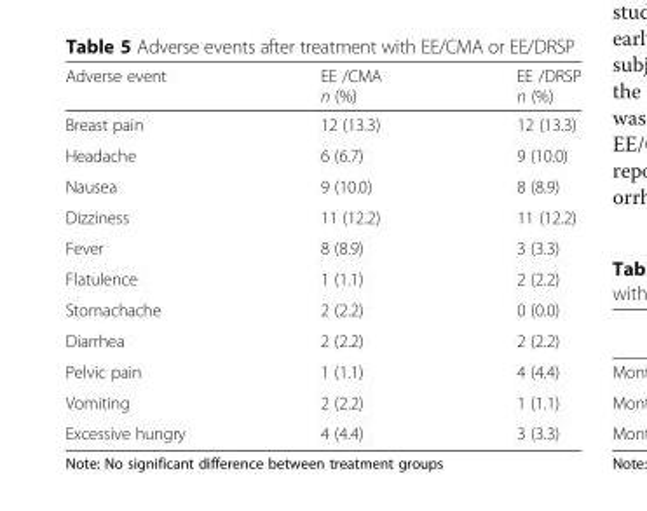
<table><thead><tr><td>Adverse event</td><td>EE /CMA n (%)</td><td>EE /DRSP n (%)</td></tr></thead><tbody><tr><td>Breast pain</td><td>12 (13.3)</td><td>12 (13.3)</td></tr><tr><td>Headache</td><td>6 (6.7)</td><td>9 (10.0)</td></tr><tr><td>Nausea</td><td>9 (10.0)</td><td>8 (8.9)</td></tr><tr><td>Dizziness</td><td>11 (12.2)</td><td>11 (12.2)</td></tr><tr><td>Fever</td><td>8 (8.9)</td><td>3 (3.3)</td></tr><tr><td>Flatulence</td><td>1 (1.1)</td><td>2 (2.2)</td></tr><tr><td>Stomachache</td><td>2 (2.2)</td><td>0 (0.0)</td></tr><tr><td>Diarrhea</td><td>2 (2.2)</td><td>2 (2.2)</td></tr><tr><td>Pelvic pain</td><td>1 (1.1)</td><td>4 (4.4)</td></tr><tr><td>Vomiting</td><td>2 (2.2)</td><td>1 (1.1)</td></tr><tr><td>Excessive hungry</td><td>4 (4.4)</td><td>3 (3.3)</td></tr></tbody></table>